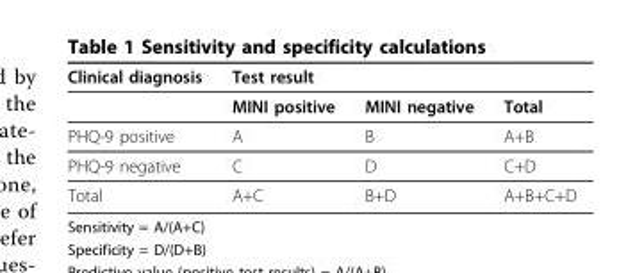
<table><thead><tr><td rowspan="2">Clinical diagnosis</td><td colspan="2">Test result</td><td rowspan="2">Total</td></tr><tr><td>MINI positive</td><td>MINI negative</td></tr></thead><tbody><tr><td>PHQ-9 positive</td><td>A</td><td>B</td><td>A+B</td></tr><tr><td>PHQ-9 negative</td><td>C</td><td>D</td><td>C+D</td></tr><tr><td>Total</td><td>A+C</td><td>B+D</td><td>A+B+C+D</td></tr></tbody></table>